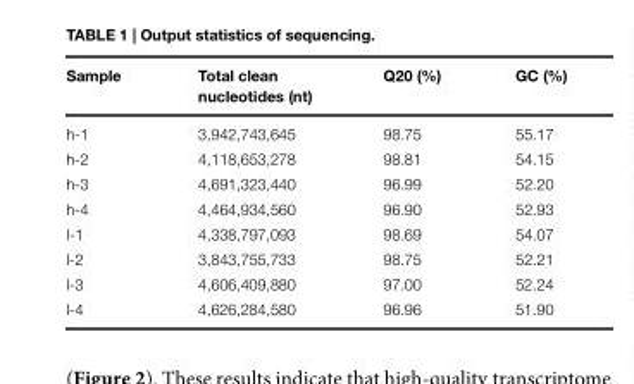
<table><thead><tr><td>Sample</td><td>Total clean nucleotides (nt)</td><td>Q20 (%)</td><td>GC (%)</td></tr></thead><tbody><tr><td>h-1</td><td>3,942,743,645</td><td>98.75</td><td>55.17</td></tr><tr><td>h-2</td><td>4,118,653,278</td><td>98.81</td><td>54.15</td></tr><tr><td>h-3</td><td>4,691,323,440</td><td>96.99</td><td>52.20</td></tr><tr><td>h-4</td><td>4,464,934,560</td><td>96.90</td><td>52.93</td></tr><tr><td>l-1</td><td>4,338,797,093</td><td>98.69</td><td>54.07</td></tr><tr><td>l-2</td><td>3,843,755,733</td><td>98.75</td><td>52.21</td></tr><tr><td>l-3</td><td>4,606,409,880</td><td>97.00</td><td>52.24</td></tr><tr><td>l-4</td><td>4,626,284,580</td><td>96.96</td><td>51.90</td></tr></tbody></table>